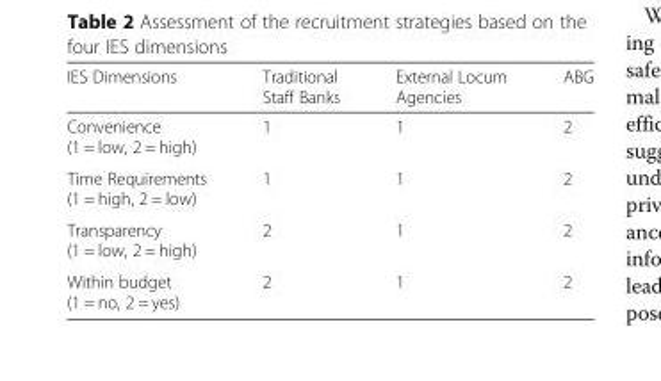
<table><thead><tr><td>IES Dimensions</td><td>Traditional Staff Banks</td><td>External Locum Agencies</td><td>ABG</td></tr></thead><tbody><tr><td>Convenience (1 = low, 2 = high)</td><td>1</td><td>1</td><td>2</td></tr><tr><td>Time Requirements (1 = high, 2 = low)</td><td>1</td><td>1</td><td>2</td></tr><tr><td>Transparency (1 = low, 2 = high)</td><td>2</td><td>1</td><td>2</td></tr><tr><td>Within budget (1 = no, 2 = yes)</td><td>2</td><td>1</td><td>2</td></tr></tbody></table>